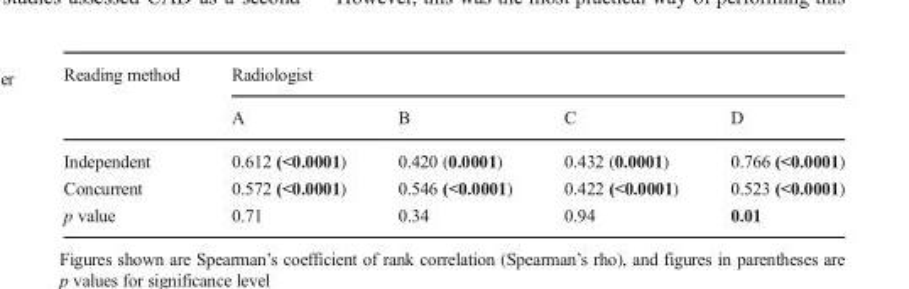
<table><thead><tr><td rowspan="2">Reading method</td><td colspan="4">Radiologist</td></tr><tr><td>A</td><td>B</td><td>C</td><td>D</td></tr></thead><tbody><tr><td>Independent</td><td>0.612 (&lt;0.0001)</td><td>0.420 (0.0001)</td><td>0.432 (0.0001)</td><td>0.766 (&lt;0.0001)</td></tr><tr><td>Concurrent</td><td>0.572 (&lt;0.0001)</td><td>0.546 (&lt;0.0001)</td><td>0.422 (&lt;0.0001)</td><td>0.523 (&lt;0.0001)</td></tr><tr><td>p value</td><td>0.71</td><td>0.34</td><td>0.94</td><td>0.01</td></tr></tbody></table>